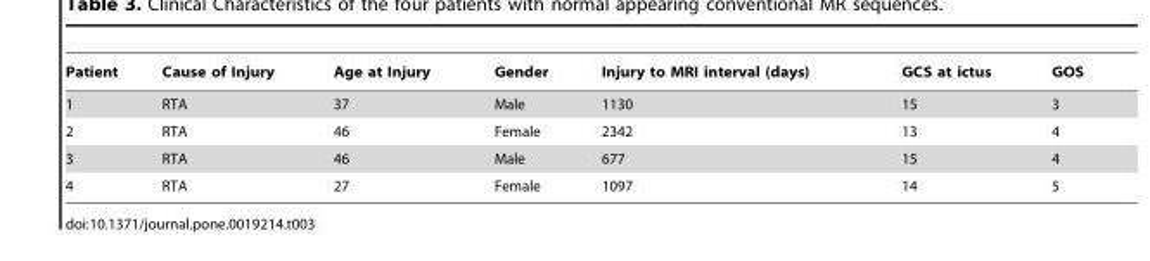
<table><thead><tr><td>Patient</td><td>Cause of Injury</td><td>Age at Injury</td><td>Gender</td><td>Injury to MRI interval (days)</td><td>GCS at ictus</td><td>GOS</td></tr></thead><tbody><tr><td>1</td><td>RTA</td><td>37</td><td>Male</td><td>1130</td><td>15</td><td>3</td></tr><tr><td>2</td><td>RTA</td><td>46</td><td>Female</td><td>2342</td><td>13</td><td>4</td></tr><tr><td>3</td><td>RTA</td><td>46</td><td>Male</td><td>677</td><td>15</td><td>4</td></tr><tr><td>4</td><td>RTA</td><td>27</td><td>Female</td><td>1097</td><td>14</td><td>5</td></tr></tbody></table>